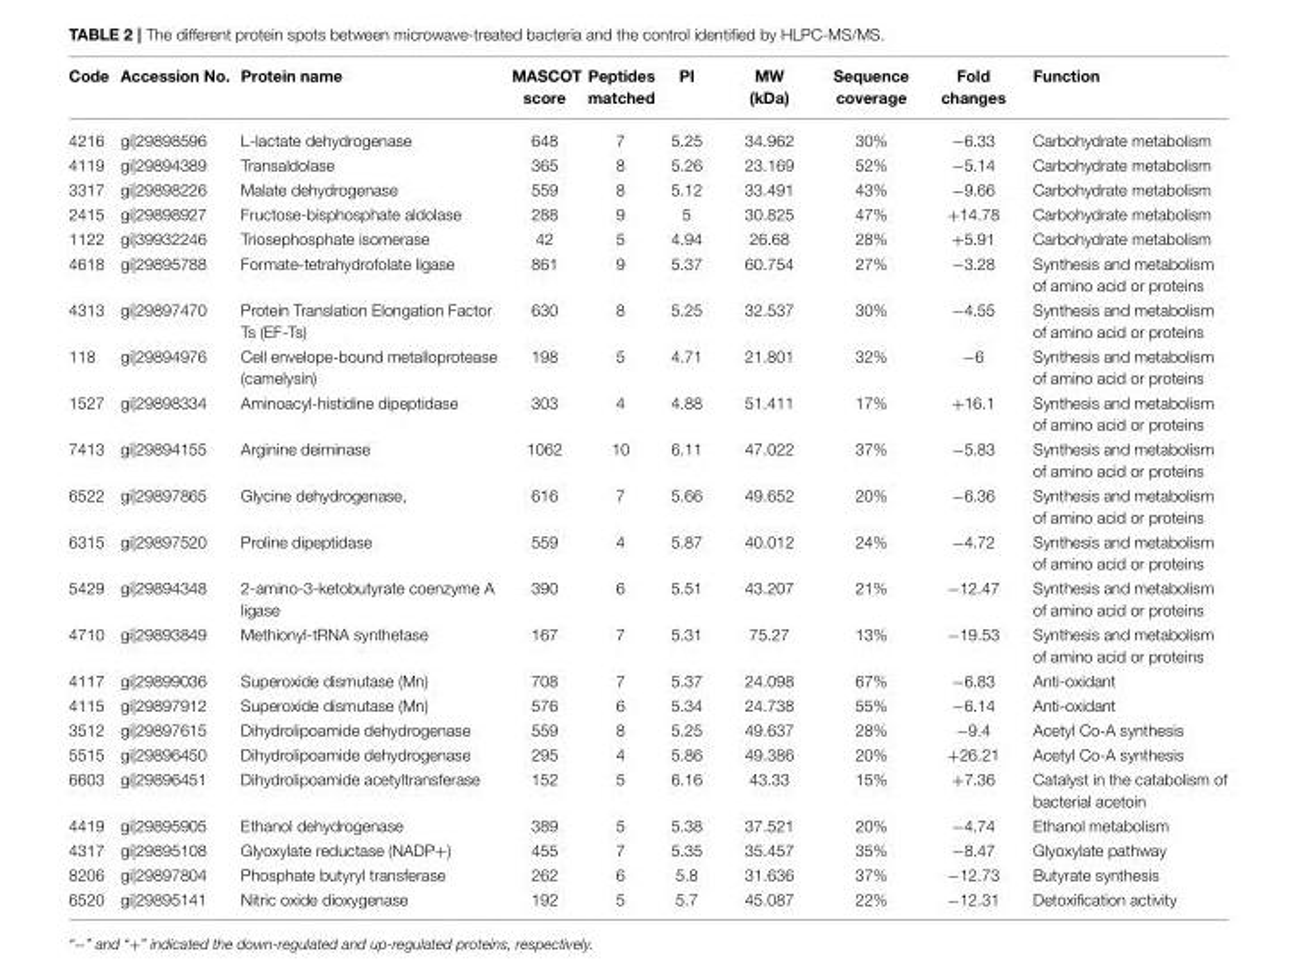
<table><thead><tr><td>Code</td><td>Accession No.</td><td>Protein name</td><td>MASCOT score</td><td>Peptides matched</td><td>PI</td><td>MW (kDa)</td><td>Sequence coverage</td><td>Fold changes</td><td>Function</td></tr></thead><tbody><tr><td>4216</td><td>gi|29898596</td><td>L-lactate dehydrogenase</td><td>648</td><td>7</td><td>5.25</td><td>34.962</td><td>30%</td><td>−6.33</td><td>Carbohydrate metabolism</td></tr><tr><td>4119</td><td>gi|29894389</td><td>Transaldolase</td><td>365</td><td>8</td><td>5.26</td><td>23.169</td><td>52%</td><td>−5.14</td><td>Carbohydrate metabolism</td></tr><tr><td>3317</td><td>gi|29898226</td><td>Malate dehydrogenase</td><td>559</td><td>8</td><td>5.12</td><td>33.491</td><td>43%</td><td>−9.66</td><td>Carbohydrate metabolism</td></tr><tr><td>2415</td><td>gi|29898927</td><td>Fructose-bisphosphate aldolase</td><td>288</td><td>9</td><td>5</td><td>30.825</td><td>47%</td><td>+14.78</td><td>Carbohydrate metabolism</td></tr><tr><td>1122</td><td>gi|39932246</td><td>Triosephosphate isomerase</td><td>42</td><td>5</td><td>4.94</td><td>26.68</td><td>28%</td><td>+5.91</td><td>Carbohydrate metabolism</td></tr><tr><td>4618</td><td>gi|29895788</td><td>Formate-tetrahydrofolate ligase</td><td>861</td><td>9</td><td>5.37</td><td>60.754</td><td>27%</td><td>−3.28</td><td>Synthesis and metabolism of amino acid or proteins</td></tr><tr><td>4313</td><td>gi|29897470</td><td>Protein Translation Elongation Factor Ts (EF-Ts)</td><td>630</td><td>8</td><td>5.25</td><td>32.537</td><td>30%</td><td>−4.55</td><td>Synthesis and metabolism of amino acid or proteins</td></tr><tr><td>118</td><td>gi|29894976</td><td>Cell envelope-bound metalloprotease (camelysin)</td><td>198</td><td>5</td><td>4.71</td><td>21.801</td><td>32%</td><td>−6</td><td>Synthesis and metabolism of amino acid or proteins</td></tr><tr><td>1527</td><td>gi|29898334</td><td>Aminoacyl-histidine dipeptidase</td><td>303</td><td>4</td><td>4.88</td><td>51.411</td><td>17%</td><td>+16.1</td><td>Synthesis and metabolism of amino acid or proteins</td></tr><tr><td>7413</td><td>gi|29894155</td><td>Arginine deiminase</td><td>1062</td><td>10</td><td>6.11</td><td>47.022</td><td>37%</td><td>−5.83</td><td>Synthesis and metabolism of amino acid or proteins</td></tr><tr><td>6522</td><td>gi|29897865</td><td>Glycine dehydrogenase,</td><td>616</td><td>7</td><td>5.66</td><td>49.652</td><td>20%</td><td>−6.36</td><td>Synthesis and metabolism of amino acid or proteins</td></tr><tr><td>6315</td><td>gi|29897520</td><td>Proline dipeptidase</td><td>559</td><td>4</td><td>5.87</td><td>40.012</td><td>24%</td><td>−4.72</td><td>Synthesis and metabolism of amino acid or proteins</td></tr><tr><td>5429</td><td>gi|29894348</td><td>2-amino-3-ketobutyrate coenzyme A ligase</td><td>390</td><td>6</td><td>5.51</td><td>43.207</td><td>21%</td><td>−12.47</td><td>Synthesis and metabolism of amino acid or proteins</td></tr><tr><td>4710</td><td>gi|29893849</td><td>Methionyl-tRNA synthetase</td><td>167</td><td>7</td><td>5.31</td><td>75.27</td><td>13%</td><td>−19.53</td><td>Synthesis and metabolism of amino acid or proteins</td></tr><tr><td>4117</td><td>gi|29899036</td><td>Superoxide dismutase (Mn)</td><td>708</td><td>7</td><td>5.37</td><td>24.098</td><td>67%</td><td>−6.83</td><td>Anti-oxidant</td></tr><tr><td>4115</td><td>gi|29897912</td><td>Superoxide dismutase (Mn)</td><td>576</td><td>6</td><td>5.34</td><td>24.738</td><td>55%</td><td>−6.14</td><td>Anti-oxidant</td></tr><tr><td>3512</td><td>gi|29897615</td><td>Dihydrolipoamide dehydrogenase</td><td>559</td><td>8</td><td>5.25</td><td>49.637</td><td>28%</td><td>−9.4</td><td>Acetyl Co-A synthesis</td></tr><tr><td>5515</td><td>gi|29896450</td><td>Dihydrolipoamide dehydrogenase</td><td>295</td><td>4</td><td>5.86</td><td>49.386</td><td>20%</td><td>+26.21</td><td>Acetyl Co-A synthesis</td></tr><tr><td>6603</td><td>gi|29896451</td><td>Dihydrolipoamide acetyltransferase</td><td>152</td><td>5</td><td>6.16</td><td>43.33</td><td>15%</td><td>+7.36</td><td>Catalyst in the catabolism of bacterial acetoin</td></tr><tr><td>4419</td><td>gi|29895905</td><td>Ethanol dehydrogenase</td><td>389</td><td>5</td><td>5.38</td><td>37.521</td><td>20%</td><td>−4.74</td><td>Ethanol metabolism</td></tr><tr><td>4317</td><td>gi|29895108</td><td>Glyoxylate reductase (NADP+)</td><td>455</td><td>7</td><td>5.35</td><td>35.457</td><td>35%</td><td>−8.47</td><td>Glyoxylate pathway</td></tr><tr><td>8206</td><td>gi|29897804</td><td>Phosphate butyryl transferase</td><td>262</td><td>6</td><td>5.8</td><td>31.636</td><td>37%</td><td>−12.73</td><td>Butyrate synthesis</td></tr><tr><td>6520</td><td>gi|29895141</td><td>Nitric oxide dioxygenase</td><td>192</td><td>5</td><td>5.7</td><td>45.087</td><td>22%</td><td>−12.31</td><td>Detoxification activity</td></tr></tbody></table>